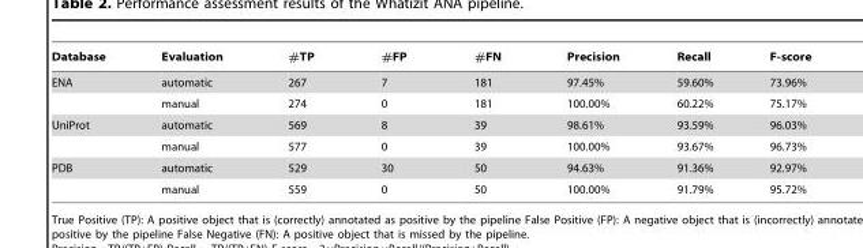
<table><thead><tr><td>Database</td><td>Evaluation</td><td>#TP</td><td>#FP</td><td>#FN</td><td>Precision</td><td>Recall</td><td>F-score</td></tr></thead><tbody><tr><td rowspan="2">ENA</td><td>automatic</td><td>267</td><td>7</td><td>181</td><td>97.45%</td><td>59.60%</td><td>73.96%</td></tr><tr><td>manual</td><td>274</td><td>0</td><td>181</td><td>100.00%</td><td>60.22%</td><td>75.17%</td></tr><tr><td rowspan="2">UniProt</td><td>automatic</td><td>569</td><td>8</td><td>39</td><td>98.61%</td><td>93.59%</td><td>96.03%</td></tr><tr><td>manual</td><td>577</td><td>0</td><td>39</td><td>100.00%</td><td>93.67%</td><td>96.73%</td></tr><tr><td rowspan="2">PDB</td><td>automatic</td><td>529</td><td>30</td><td>50</td><td>94.63%</td><td>91.36%</td><td>92.97%</td></tr><tr><td>manual</td><td>559</td><td>0</td><td>50</td><td>100.00%</td><td>91.79%</td><td>95.72%</td></tr></tbody></table>